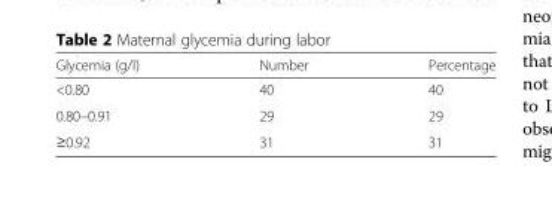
<table><thead><tr><td>Glycemia (g/l)</td><td>Number</td><td>Percentage</td></tr></thead><tbody><tr><td>&lt;0.80</td><td>40</td><td>40</td></tr><tr><td>0.80–0.91</td><td>29</td><td>29</td></tr><tr><td>≥0.92</td><td>31</td><td>31</td></tr></tbody></table>